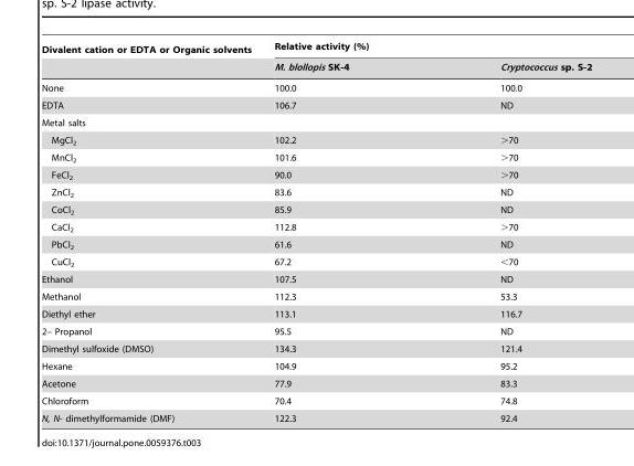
<table><thead><tr><td rowspan="2">Divalent cation or EDTA or Organic solvents</td><td colspan="2">Relative activity (%)</td></tr><tr><td>M. blollopis SK-4</td><td>Cryptococcus sp. S-2</td></tr></thead><tbody><tr><td>None</td><td>100.0</td><td>100.0</td></tr><tr><td>EDTA</td><td>106.7</td><td>ND</td></tr><tr><td colspan="3">Metal salts</td></tr><tr><td>MgCl<sub>2</sub></td><td>102.2</td><td>&gt;70</td></tr><tr><td>MnCl<sub>2</sub></td><td>101.6</td><td>&gt;70</td></tr><tr><td>FeCl<sub>2</sub></td><td>90.0</td><td>&gt;70</td></tr><tr><td>ZnCl<sub>2</sub></td><td>83.6</td><td>ND</td></tr><tr><td>CoCl<sub>2</sub></td><td>85.9</td><td>ND</td></tr><tr><td>CaCl<sub>2</sub></td><td>112.8</td><td>&gt;70</td></tr><tr><td>PbCl<sub>2</sub></td><td>61.6</td><td>ND</td></tr><tr><td>CuCl<sub>2</sub></td><td>67.2</td><td>&lt;70</td></tr><tr><td>Ethanol</td><td>107.5</td><td>ND</td></tr><tr><td>Methanol</td><td>112.3</td><td>53.3</td></tr><tr><td>Diethyl ether</td><td>113.1</td><td>116.7</td></tr><tr><td>2– Propanol</td><td>95.5</td><td>ND</td></tr><tr><td>Dimethyl sulfoxide (DMSO)</td><td>134.3</td><td>121.4</td></tr><tr><td>Hexane</td><td>104.9</td><td>95.2</td></tr><tr><td>Acetone</td><td>77.9</td><td>83.3</td></tr><tr><td>Chloroform</td><td>70.4</td><td>74.8</td></tr><tr><td>N, N- dimethylformamide (DMF)</td><td>122.3</td><td>92.4</td></tr></tbody></table>